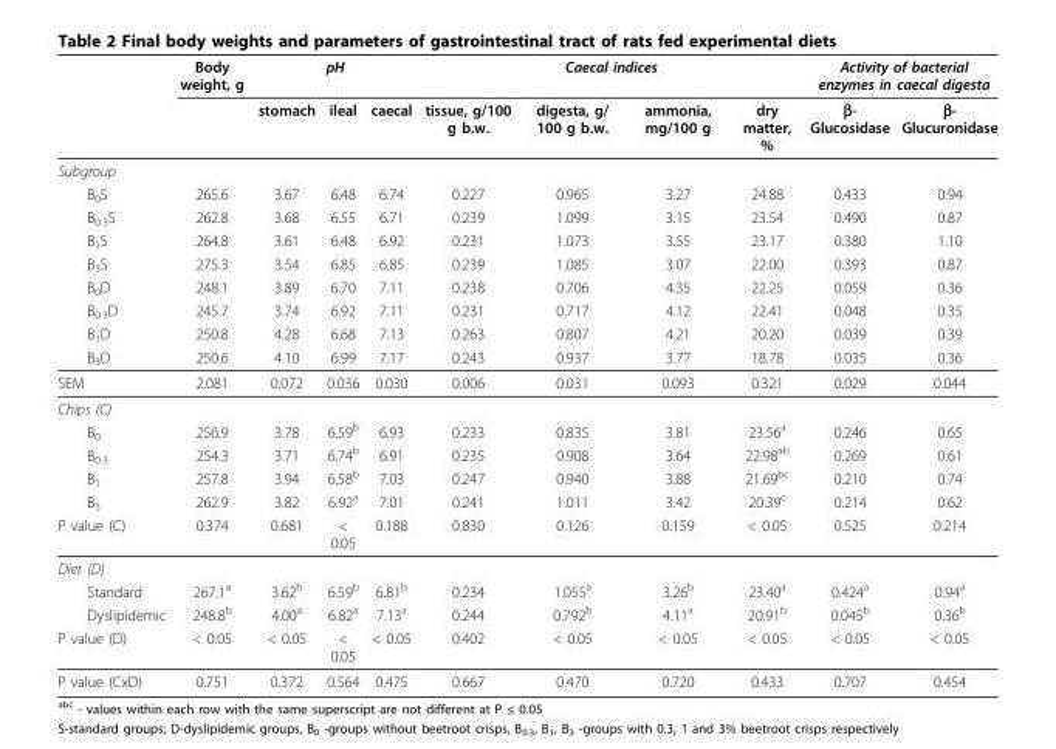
<table><thead><tr><td rowspan="2"></td><td rowspan="2">Body weight, g</td><td colspan="3">pH</td><td colspan="4">Caecal indices</td><td colspan="2">Activity of bacterial enzymes in caecal digesta</td></tr><tr><td>stomach</td><td>ileal</td><td>caecal</td><td>tissue, g/100 g b.w.</td><td>digesta, g/ 100 g b.w.</td><td>ammonia, mg/100 g</td><td>dry matter, %</td><td>β- Glucosidase</td><td>β- Glucuronidase</td></tr></thead><tbody><tr><td colspan="11">Subgroup</td></tr><tr><td>B<sub>0</sub>S</td><td>265.6</td><td>3.67</td><td>6.48</td><td>6.74</td><td>0.227</td><td>0.965</td><td>3.27</td><td>24.88</td><td>0.433</td><td>0.94</td></tr><tr><td>B<sub>0.3</sub>S</td><td>262.8</td><td>3.68</td><td>6.55</td><td>6.71</td><td>0.239</td><td>1.099</td><td>3.15</td><td>23.54</td><td>0.490</td><td>0.87</td></tr><tr><td>B<sub>1</sub>S</td><td>264.8</td><td>3.61</td><td>6.48</td><td>6.92</td><td>0.231</td><td>1.073</td><td>3.55</td><td>23.17</td><td>0.380</td><td>1.10</td></tr><tr><td>B<sub>3</sub>S</td><td>275.3</td><td>3.54</td><td>6.85</td><td>6.85</td><td>0.239</td><td>1.085</td><td>3.07</td><td>22.00</td><td>0.393</td><td>0.87</td></tr><tr><td>B<sub>0</sub>D</td><td>248.1</td><td>3.89</td><td>6.70</td><td>7.11</td><td>0.238</td><td>0.706</td><td>4.35</td><td>22.25</td><td>0.059</td><td>0.36</td></tr><tr><td>B<sub>0.3</sub>D</td><td>245.7</td><td>3.74</td><td>6.92</td><td>7.11</td><td>0.231</td><td>0.717</td><td>4.12</td><td>22.41</td><td>0.048</td><td>0.35</td></tr><tr><td>B<sub>1</sub>D</td><td>250.8</td><td>4.28</td><td>6.68</td><td>7.13</td><td>0.263</td><td>0.807</td><td>4.21</td><td>20.20</td><td>0.039</td><td>0.39</td></tr><tr><td>B<sub>3</sub>D</td><td>250.6</td><td>4.10</td><td>6.99</td><td>7.17</td><td>0.243</td><td>0.937</td><td>3.77</td><td>18.78</td><td>0.035</td><td>0.36</td></tr><tr><td>SEM</td><td>2.081</td><td>0.072</td><td>0.036</td><td>0.030</td><td>0.006</td><td>0.031</td><td>0.093</td><td>0.321</td><td>0.029</td><td>0.044</td></tr><tr><td colspan="11">Chips (C)</td></tr><tr><td>B<sub>0</sub></td><td>256.9</td><td>3.78</td><td>6.59<sup>b</sup></td><td>6.93</td><td>0.233</td><td>0.835</td><td>3.81</td><td>23.56<sup>a</sup></td><td>0.246</td><td>0.65</td></tr><tr><td>B<sub>0.3</sub></td><td>254.3</td><td>3.71</td><td>6.74<sup>b</sup></td><td>6.91</td><td>0.235</td><td>0.908</td><td>3.64</td><td>22.98<sup>ab</sup></td><td>0.269</td><td>0.61</td></tr><tr><td>B<sub>1</sub></td><td>257.8</td><td>3.94</td><td>6.58<sup>b</sup></td><td>7.03</td><td>0.247</td><td>0.940</td><td>3.88</td><td>21.69<sup>bc</sup></td><td>0.210</td><td>0.74</td></tr><tr><td>B<sub>3</sub></td><td>262.9</td><td>3.82</td><td>6.92<sup>a</sup></td><td>7.01</td><td>0.241</td><td>1.011</td><td>3.42</td><td>20.39<sup>c</sup></td><td>0.214</td><td>0.62</td></tr><tr><td>P value (C)</td><td>0.374</td><td>0.681</td><td>&lt; 0.05</td><td>0.188</td><td>0.830</td><td>0.126</td><td>0.159</td><td>&lt; 0.05</td><td>0.525</td><td>0.214</td></tr><tr><td colspan="11">Diet (D)</td></tr><tr><td>Standard</td><td>267.1<sup>a</sup></td><td>3.62<sup>b</sup></td><td>6.59<sup>b</sup></td><td>6.81<sup>b</sup></td><td>0.234</td><td>1.055<sup>a</sup></td><td>3.26<sup>b</sup></td><td>23.40<sup>a</sup></td><td>0.424<sup>a</sup></td><td>0.94<sup>a</sup></td></tr><tr><td>Dyslipidemic</td><td>248.8<sup>b</sup></td><td>4.00<sup>a</sup></td><td>6.82<sup>a</sup></td><td>7.13<sup>a</sup></td><td>0.244</td><td>0.792<sup>b</sup></td><td>4.11<sup>a</sup></td><td>20.91<sup>b</sup></td><td>0.045<sup>b</sup></td><td>0.36<sup>b</sup></td></tr><tr><td>P value (D)</td><td>&lt; 0.05</td><td>&lt; 0.05</td><td>&lt; 0.05</td><td>&lt; 0.05</td><td>0.402</td><td>&lt; 0.05</td><td>&lt; 0.05</td><td>&lt; 0.05</td><td>&lt; 0.05</td><td>&lt; 0.05</td></tr><tr><td>P value (CxD)</td><td>0.751</td><td>0.372</td><td>0.564</td><td>0.475</td><td>0.667</td><td>0.470</td><td>0.720</td><td>0.433</td><td>0.707</td><td>0.454</td></tr></tbody></table>